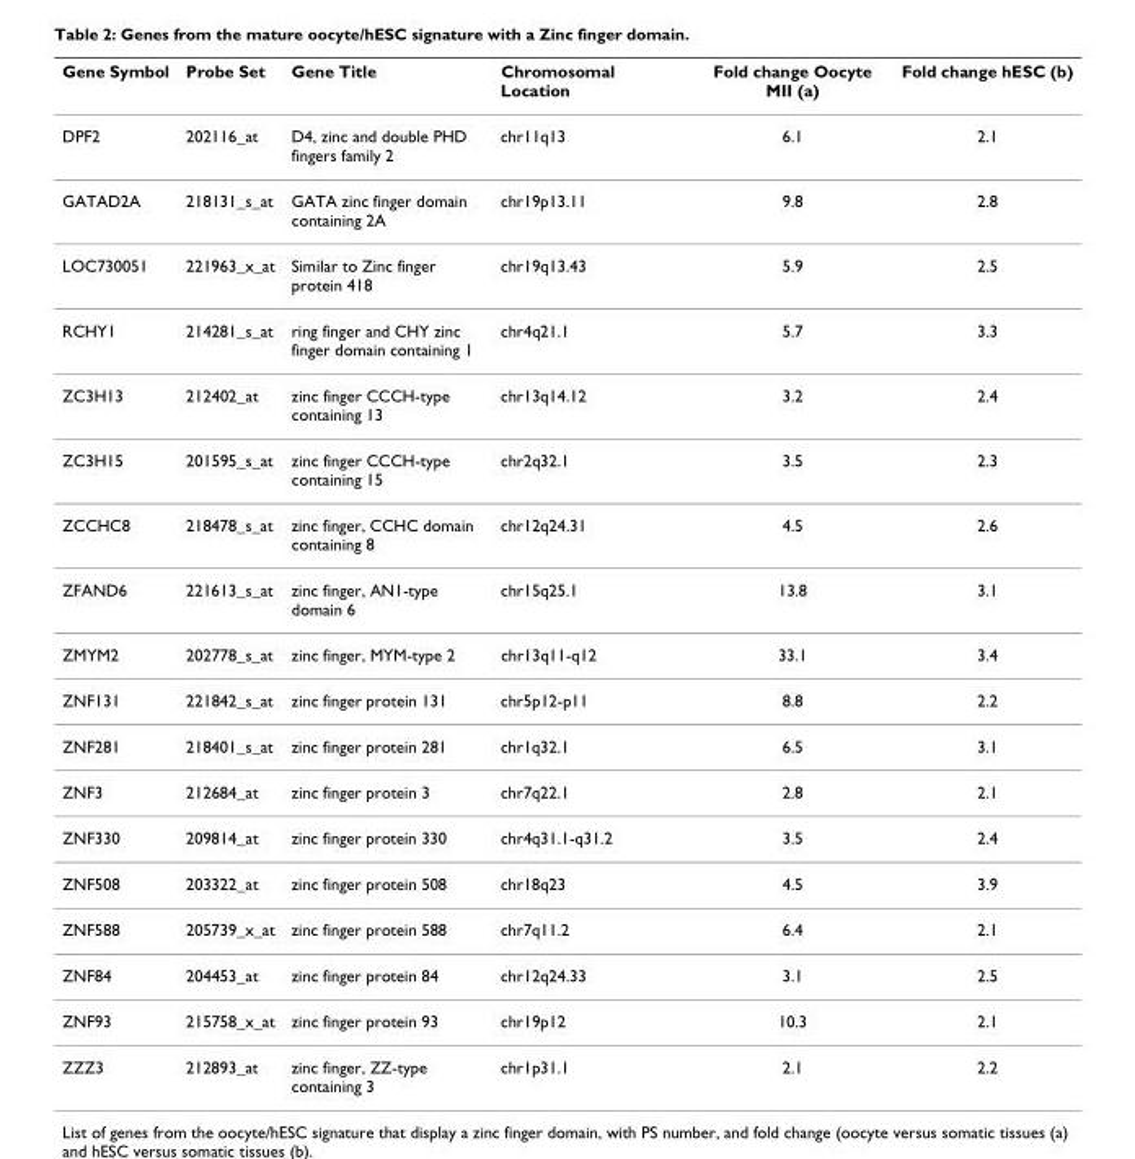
<table><thead><tr><td>Gene Symbol</td><td>Probe Set</td><td>Gene Title</td><td>Chromosomal Location</td><td>Fold change Oocyte MII (a)</td><td>Fold change hESC (b)</td></tr></thead><tbody><tr><td>DPF2</td><td>202116_at</td><td>D4, zinc and double PHD fingers family 2</td><td>chr11q13</td><td>6.1</td><td>2.1</td></tr><tr><td>GATAD2A</td><td>218131_s_at</td><td>GATA zinc finger domain containing 2A</td><td>chr19p13.11</td><td>9.8</td><td>2.8</td></tr><tr><td>LOC730051</td><td>221963_x_at</td><td>Similar to Zinc finger protein 418</td><td>chr19q13.43</td><td>5.9</td><td>2.5</td></tr><tr><td>RCHY1</td><td>214281_s_at</td><td>ring finger and CHY zinc finger domain containing 1</td><td>chr4q21.1</td><td>5.7</td><td>3.3</td></tr><tr><td>ZC3H13</td><td>212402_at</td><td>zinc finger CCCH-type containing 13</td><td>chr13q14.12</td><td>3.2</td><td>2.4</td></tr><tr><td>ZC3H15</td><td>201595_s_at</td><td>zinc finger CCCH-type containing 15</td><td>chr2q32.1</td><td>3.5</td><td>2.3</td></tr><tr><td>ZCCHC8</td><td>218478_s_at</td><td>zinc finger, CCHC domain containing 8</td><td>chr12q24.31</td><td>4.5</td><td>2.6</td></tr><tr><td>ZFAND6</td><td>221613_s_at</td><td>zinc finger, AN1-type domain 6</td><td>chr15q25.1</td><td>13.8</td><td>3.1</td></tr><tr><td>ZMYM2</td><td>202778_s_at</td><td>zinc finger, MYM-type 2</td><td>chr13q11-q12</td><td>33.1</td><td>3.4</td></tr><tr><td>ZNF131</td><td>221842_s_at</td><td>zinc finger protein 131</td><td>chr5p12-p11</td><td>8.8</td><td>2.2</td></tr><tr><td>ZNF281</td><td>218401_s_at</td><td>zinc finger protein 281</td><td>chr1q32.1</td><td>6.5</td><td>3.1</td></tr><tr><td>ZNF3</td><td>212684_at</td><td>zinc finger protein 3</td><td>chr7q22.1</td><td>2.8</td><td>2.1</td></tr><tr><td>ZNF330</td><td>209814_at</td><td>zinc finger protein 330</td><td>chr4q31.1-q31.2</td><td>3.5</td><td>2.4</td></tr><tr><td>ZNF508</td><td>203322_at</td><td>zinc finger protein 508</td><td>chr18q23</td><td>4.5</td><td>3.9</td></tr><tr><td>ZNF588</td><td>205739_x_at</td><td>zinc finger protein 588</td><td>chr7q11.2</td><td>6.4</td><td>2.1</td></tr><tr><td>ZNF84</td><td>204453_at</td><td>zinc finger protein 84</td><td>chr12q24.33</td><td>3.1</td><td>2.5</td></tr><tr><td>ZNF93</td><td>215758_x_at</td><td>zinc finger protein 93</td><td>chr19p12</td><td>10.3</td><td>2.1</td></tr><tr><td>ZZZ3</td><td>212893_at</td><td>zinc finger, ZZ-type containing 3</td><td>chr1p31.1</td><td>2.1</td><td>2.2</td></tr></tbody></table>